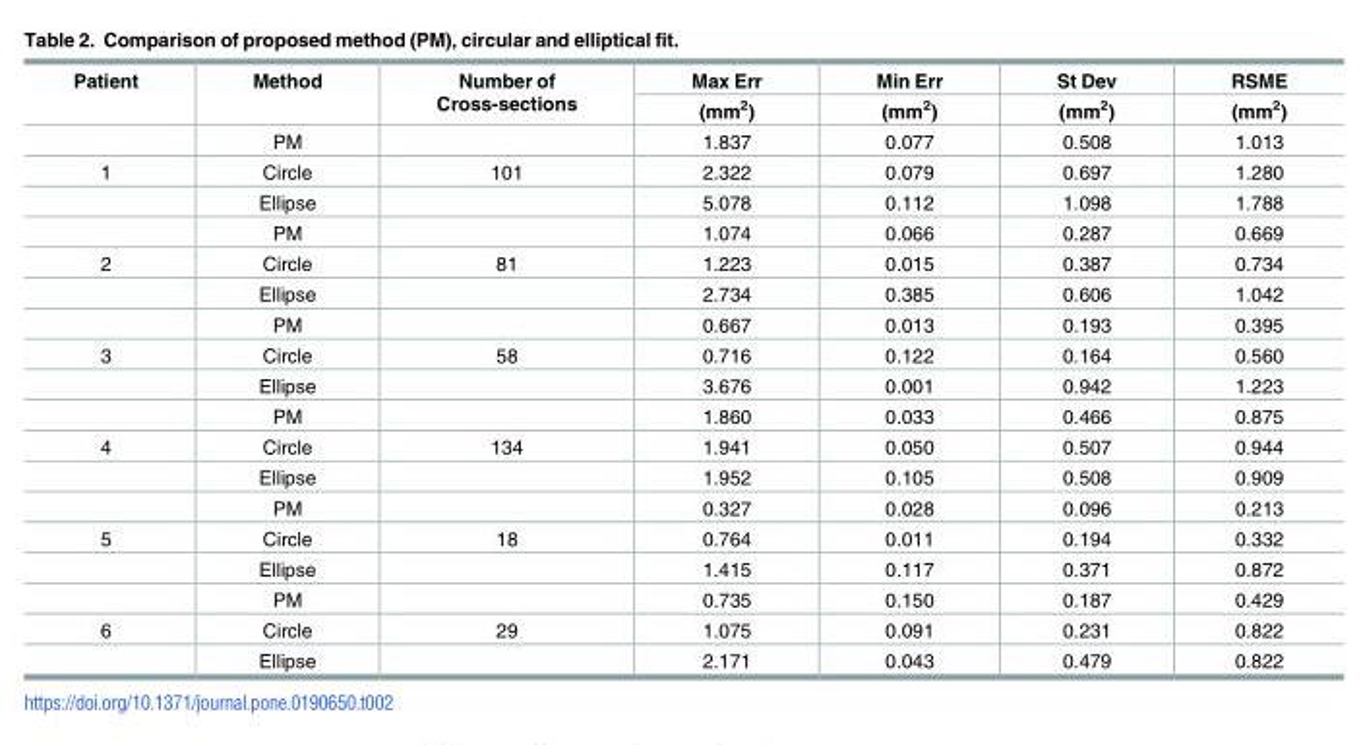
<table><thead><tr><td rowspan="2">Patient</td><td rowspan="2">Method</td><td rowspan="2">Number of Cross-sections</td><td rowspan="2">Max Err (mm<sup>2</sup>)</td><td rowspan="2">Min Err (mm<sup>2</sup>)</td><td rowspan="2">St Dev (mm<sup>2</sup>)</td><td rowspan="2">RSME (mm<sup>2</sup>)</td></tr><tr></tr></thead><tbody><tr><td></td><td>PM</td><td></td><td>1.837</td><td>0.077</td><td>0.508</td><td>1.013</td></tr><tr><td rowspan="3">1</td><td>Circle</td><td>101</td><td>2.322</td><td>0.079</td><td>0.697</td><td>1.280</td></tr><tr><td>Ellipse</td><td></td><td>5.078</td><td>0.112</td><td>1.098</td><td>1.788</td></tr><tr><td>PM</td><td></td><td>1.074</td><td>0.066</td><td>0.287</td><td>0.669</td></tr><tr><td rowspan="3">2</td><td>Circle</td><td>81</td><td>1.223</td><td>0.015</td><td>0.387</td><td>0.734</td></tr><tr><td>Ellipse</td><td></td><td>2.734</td><td>0.385</td><td>0.606</td><td>1.042</td></tr><tr><td>PM</td><td></td><td>0.667</td><td>0.013</td><td>0.193</td><td>0.395</td></tr><tr><td rowspan="3">3</td><td>Circle</td><td>58</td><td>0.716</td><td>0.122</td><td>0.164</td><td>0.560</td></tr><tr><td>Ellipse</td><td></td><td>3.676</td><td>0.001</td><td>0.942</td><td>1.223</td></tr><tr><td>PM</td><td></td><td>1.860</td><td>0.033</td><td>0.466</td><td>0.875</td></tr><tr><td rowspan="3">4</td><td>Circle</td><td>134</td><td>1.941</td><td>0.050</td><td>0.507</td><td>0.944</td></tr><tr><td>Ellipse</td><td></td><td>1.952</td><td>0.105</td><td>0.508</td><td>0.909</td></tr><tr><td>PM</td><td></td><td>0.327</td><td>0.028</td><td>0.096</td><td>0.213</td></tr><tr><td rowspan="3">5</td><td>Circle</td><td>18</td><td>0.764</td><td>0.011</td><td>0.194</td><td>0.332</td></tr><tr><td>Ellipse</td><td></td><td>1.415</td><td>0.117</td><td>0.371</td><td>0.872</td></tr><tr><td>PM</td><td></td><td>0.735</td><td>0.150</td><td>0.187</td><td>0.429</td></tr><tr><td rowspan="2">6</td><td>Circle</td><td>29</td><td>1.075</td><td>0.091</td><td>0.231</td><td>0.822</td></tr><tr><td>Ellipse</td><td></td><td>2.171</td><td>0.043</td><td>0.479</td><td>0.822</td></tr></tbody></table>